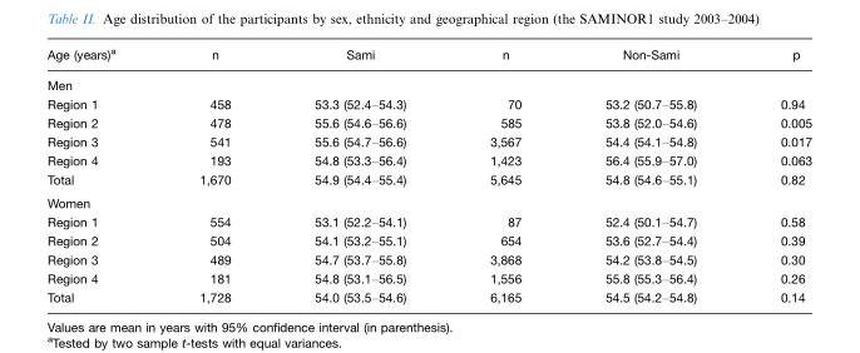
<table><thead><tr><td>Age (years)<sup>a</sup></td><td>n</td><td>Sami</td><td>n</td><td>Non-Sami</td><td>p</td></tr></thead><tbody><tr><td colspan="6">Men</td></tr><tr><td>Region 1</td><td>458</td><td>53.3 (52.4–54.3)</td><td>70</td><td>53.2 (50.7–55.8)</td><td>0.94</td></tr><tr><td>Region 2</td><td>478</td><td>55.6 (54.6–56.6)</td><td>585</td><td>53.8 (52.0–54.6)</td><td>0.005</td></tr><tr><td>Region 3</td><td>541</td><td>55.6 (54.7–56.6)</td><td>3,567</td><td>54.4 (54.1–54.8)</td><td>0.017</td></tr><tr><td>Region 4</td><td>193</td><td>54.8 (53.3–56.4)</td><td>1,423</td><td>56.4 (55.9–57.0)</td><td>0.063</td></tr><tr><td>Total</td><td>1,670</td><td>54.9 (54.4–55.4)</td><td>5,645</td><td>54.8 (54.6–55.1)</td><td>0.82</td></tr><tr><td colspan="6">Women</td></tr><tr><td>Region 1</td><td>554</td><td>53.1 (52.2–54.1)</td><td>87</td><td>52.4 (50.1–54.7)</td><td>0.58</td></tr><tr><td>Region 2</td><td>504</td><td>54.1 (53.2–55.1)</td><td>654</td><td>53.6 (52.7–54.4)</td><td>0.39</td></tr><tr><td>Region 3</td><td>489</td><td>54.7 (53.7–55.8)</td><td>3,868</td><td>54.2 (53.8–54.5)</td><td>0.30</td></tr><tr><td>Region 4</td><td>181</td><td>54.8 (53.1–56.5)</td><td>1,556</td><td>55.8 (55.3–56.4)</td><td>0.26</td></tr><tr><td>Total</td><td>1,728</td><td>54.0 (53.5–54.6)</td><td>6,165</td><td>54.5 (54.2–54.8)</td><td>0.14</td></tr></tbody></table>